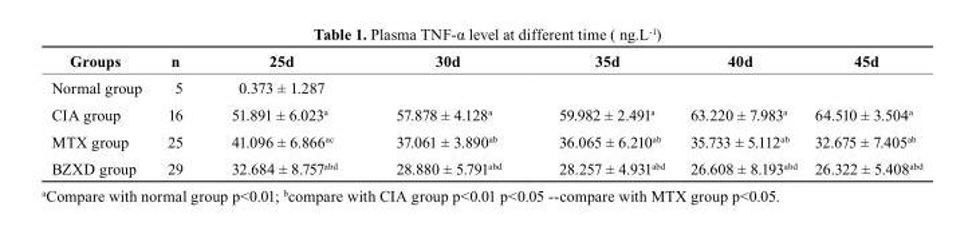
<table><thead><tr><td>Groups</td><td>n</td><td>25d</td><td>30d</td><td>35d</td><td>40d</td><td>45d</td></tr></thead><tbody><tr><td>Normal group</td><td>5</td><td>0.373 ± 1.287</td><td></td><td></td><td></td><td></td></tr><tr><td>CIA group</td><td>16</td><td>51.891 ± 6.023<sup>a</sup></td><td>57.878 ± 4.128<sup>a</sup></td><td>59.982 ± 2.491<sup>a</sup></td><td>63.220 ± 7.983<sup>a</sup></td><td>64.510 ± 3.504<sup>a</sup></td></tr><tr><td>MTX group</td><td>25</td><td>41.096 ± 6.866<sup>ac</sup></td><td>37.061 ± 3.890<sup>ab</sup></td><td>36.065 ± 6.210<sup>ab</sup></td><td>35.733 ± 5.112<sup>ab</sup></td><td>32.675 ± 7.405<sup>ab</sup></td></tr><tr><td>BZXD group</td><td>29</td><td>32.684 ± 8.757<sup>abd</sup></td><td>28.880 ± 5.791<sup>abd</sup></td><td>28.257 ± 4.931<sup>abd</sup></td><td>26.608 ± 8.193<sup>abd</sup></td><td>26.322 ± 5.408<sup>abd</sup></td></tr></tbody></table>